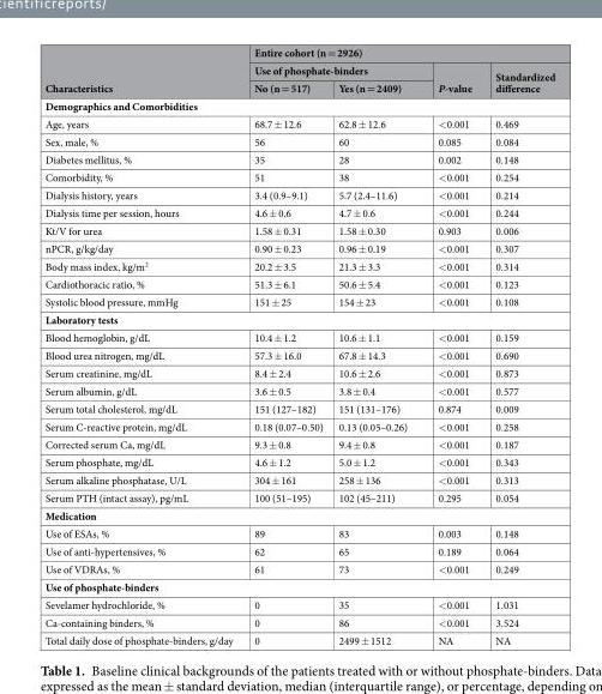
<table><thead><tr><td rowspan="3">Characteristics</td><td colspan="4">Entire cohort (n = 2926)</td></tr><tr><td colspan="2">Use of phosphate-binders</td><td rowspan="2">P-value</td><td rowspan="2">Standardized difference</td></tr><tr><td>No (n = 517)</td><td>Yes (n = 2409)</td></tr></thead><tbody><tr><td colspan="5">Demographics and Comorbidities</td></tr><tr><td>Age, years</td><td>68.7 ± 12.6</td><td>62.8 ± 12.6</td><td>&lt;0.001</td><td>0.469</td></tr><tr><td>Sex, male, %</td><td>56</td><td>60</td><td>0.085</td><td>0.084</td></tr><tr><td>Diabetes mellitus, %</td><td>35</td><td>28</td><td>0.002</td><td>0.148</td></tr><tr><td>Comorbidity, %</td><td>51</td><td>38</td><td>&lt;0.001</td><td>0.254</td></tr><tr><td>Dialysis history, years</td><td>3.4 (0.9–9.1)</td><td>5.7 (2.4–11.6)</td><td>&lt;0.001</td><td>0.214</td></tr><tr><td>Dialysis time per session, hours</td><td>4.6 ± 0.6</td><td>4.7 ± 0.6</td><td>&lt;0.001</td><td>0.244</td></tr><tr><td>Kt/V for urea</td><td>1.58 ± 0.31</td><td>1.58 ± 0.30</td><td>0.903</td><td>0.006</td></tr><tr><td>nPCR, g/kg/day</td><td>0.90 ± 0.23</td><td>0.96 ± 0.19</td><td>&lt;0.001</td><td>0.307</td></tr><tr><td>Body mass index, kg/m<sup>2</sup></td><td>20.2 ± 3.5</td><td>21.3 ± 3.3</td><td>&lt;0.001</td><td>0.314</td></tr><tr><td>Cardiothoracic ratio, %</td><td>51.3 ± 6.1</td><td>50.6 ± 5.4</td><td>&lt;0.001</td><td>0.123</td></tr><tr><td>Systolic blood pressure, mmHg</td><td>151 ± 25</td><td>154 ± 23</td><td>&lt;0.001</td><td>0.108</td></tr><tr><td colspan="5">Laboratory tests</td></tr><tr><td>Blood hemoglobin, g/dL</td><td>10.4 ± 1.2</td><td>10.6 ± 1.1</td><td>&lt;0.001</td><td>0.159</td></tr><tr><td>Blood urea nitrogen, mg/dL</td><td>57.3 ± 16.0</td><td>67.8 ± 14.3</td><td>&lt;0.001</td><td>0.690</td></tr><tr><td>Serum creatinine, mg/dL</td><td>8.4 ± 2.4</td><td>10.6 ± 2.6</td><td>&lt;0.001</td><td>0.873</td></tr><tr><td>Serum albumin, g/dL</td><td>3.6 ± 0.5</td><td>3.8 ± 0.4</td><td>&lt;0.001</td><td>0.577</td></tr><tr><td>Serum total cholesterol, mg/dL</td><td>151 (127–182)</td><td>151 (131–176)</td><td>0.874</td><td>0.009</td></tr><tr><td>Serum C-reactive protein, mg/dL</td><td>0.18 (0.07–0.50)</td><td>0.13 (0.05–0.26)</td><td>&lt;0.001</td><td>0.258</td></tr><tr><td>Corrected serum Ca, mg/dL</td><td>9.3 ± 0.8</td><td>9.4 ± 0.8</td><td>&lt;0.001</td><td>0.187</td></tr><tr><td>Serum phosphate, mg/dL</td><td>4.6 ± 1.2</td><td>5.0 ± 1.2</td><td>&lt;0.001</td><td>0.343</td></tr><tr><td>Serum alkaline phosphatase, U/L</td><td>304 ± 161</td><td>258 ± 136</td><td>&lt;0.001</td><td>0.313</td></tr><tr><td>Serum PTH (intact assay), pg/mL</td><td>100 (51–195)</td><td>102 (45–211)</td><td>0.295</td><td>0.054</td></tr><tr><td colspan="5">Medication</td></tr><tr><td>Use of ESAs, %</td><td>89</td><td>83</td><td>0.003</td><td>0.148</td></tr><tr><td>Use of anti-hypertensives, %</td><td>62</td><td>65</td><td>0.189</td><td>0.064</td></tr><tr><td>Use of VDRAs, %</td><td>61</td><td>73</td><td>&lt;0.001</td><td>0.249</td></tr><tr><td colspan="5">Use of phosphate-binders</td></tr><tr><td>Sevelamer hydrochloride, %</td><td>0</td><td>35</td><td>&lt;0.001</td><td>1.031</td></tr><tr><td>Ca-containing binders, %</td><td>0</td><td>86</td><td>&lt;0.001</td><td>3.524</td></tr><tr><td>Total daily dose of phosphate-binders, g/day</td><td>0</td><td>2499 ± 1512</td><td>NA</td><td>NA</td></tr></tbody></table>